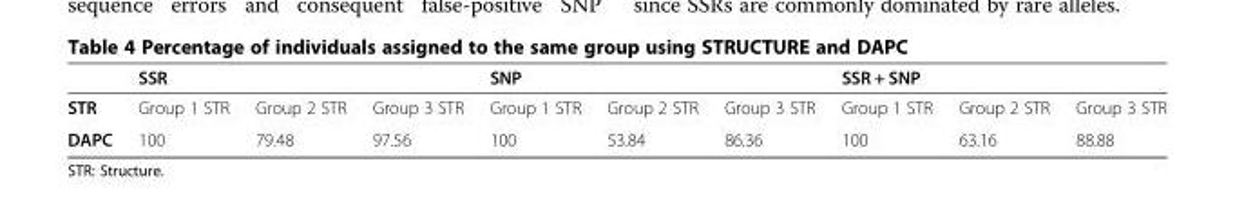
<table><thead><tr><td rowspan="2">STR</td><td colspan="3">SSR</td><td colspan="3">SNP</td><td colspan="3">SSR + SNP</td></tr><tr><td>Group 1 STR</td><td>Group 2 STR</td><td>Group 3 STR</td><td>Group 1 STR</td><td>Group 2 STR</td><td>Group 3 STR</td><td>Group 1 STR</td><td>Group 2 STR</td><td>Group 3 STR</td></tr></thead><tbody><tr><td>DAPC</td><td>100</td><td>79.48</td><td>97.56</td><td>100</td><td>53.84</td><td>86.36</td><td>100</td><td>63.16</td><td>88.88</td></tr></tbody></table>